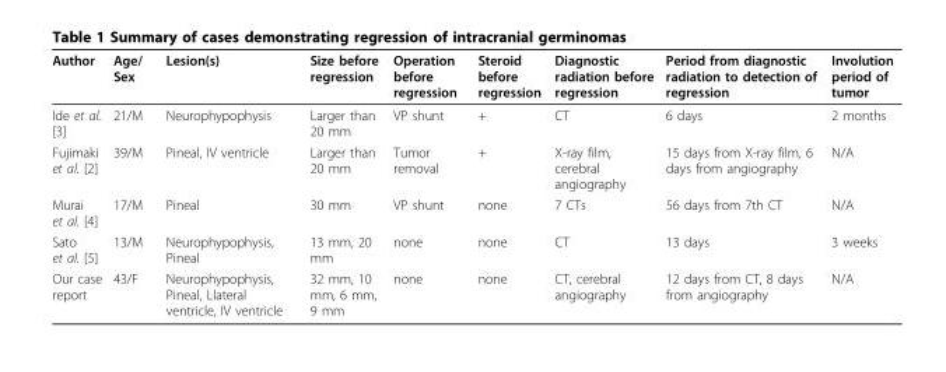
<table><thead><tr><td>Author</td><td>Age/ Sex</td><td>Lesion(s)</td><td>Size before regression</td><td>Operation before regression</td><td>Steroid before regression</td><td>Diagnostic radiation before regression</td><td>Period from diagnostic radiation to detection of regression</td><td>Involution period of tumor</td></tr></thead><tbody><tr><td>Ide et al. [3]</td><td>21/M</td><td>Neurophypophysis</td><td>Larger than 20 mm</td><td>VP shunt</td><td>+</td><td>CT</td><td>6 days</td><td>2 months</td></tr><tr><td>Fujimaki et al. [2]</td><td>39/M</td><td>Pineal, IV ventricle</td><td>Larger than 20 mm</td><td>Tumor removal</td><td>+</td><td>X-ray film, cerebral angiography</td><td>15 days from X-ray film, 6 days from angiography</td><td>N/A</td></tr><tr><td>Murai et al. [4]</td><td>17/M</td><td>Pineal</td><td>30 mm</td><td>VP shunt</td><td>none</td><td>7 CTs</td><td>56 days from 7th CT</td><td>N/A</td></tr><tr><td>Sato et al. [5]</td><td>13/M</td><td>Neurophypophysis, Pineal</td><td>13 mm, 20 mm</td><td>none</td><td>none</td><td>CT</td><td>13 days</td><td>3 weeks</td></tr><tr><td>Our case report</td><td>43/F</td><td>Neurophypophysis, Pineal, Llateral ventricle, IV ventricle</td><td>32 mm, 10 mm, 6 mm, 9 mm</td><td>none</td><td>none</td><td>CT, cerebral angiography</td><td>12 days from CT, 8 days from angiography</td><td>N/A</td></tr></tbody></table>